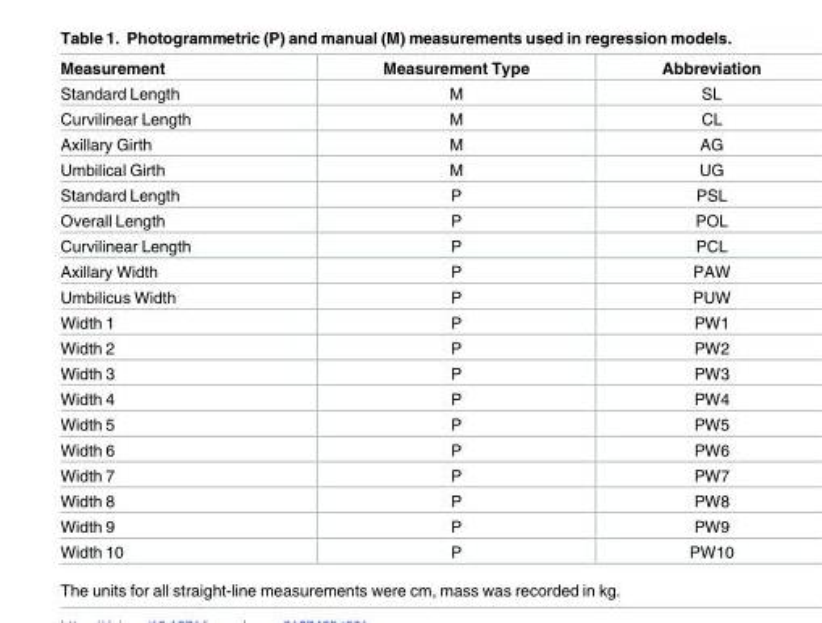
<table><thead><tr><td>Measurement</td><td>Measurement Type</td><td>Abbreviation</td></tr></thead><tbody><tr><td>Standard Length</td><td>M</td><td>SL</td></tr><tr><td>Curvilinear Length</td><td>M</td><td>CL</td></tr><tr><td>Axillary Girth</td><td>M</td><td>AG</td></tr><tr><td>Umbilical Girth</td><td>M</td><td>UG</td></tr><tr><td>Standard Length</td><td>P</td><td>PSL</td></tr><tr><td>Overall Length</td><td>P</td><td>POL</td></tr><tr><td>Curvilinear Length</td><td>P</td><td>PCL</td></tr><tr><td>Axillary Width</td><td>P</td><td>PAW</td></tr><tr><td>Umbilicus Width</td><td>P</td><td>PUW</td></tr><tr><td>Width 1</td><td>P</td><td>PW1</td></tr><tr><td>Width 2</td><td>P</td><td>PW2</td></tr><tr><td>Width 3</td><td>P</td><td>PW3</td></tr><tr><td>Width 4</td><td>P</td><td>PW4</td></tr><tr><td>Width 5</td><td>P</td><td>PW5</td></tr><tr><td>Width 6</td><td>P</td><td>PW6</td></tr><tr><td>Width 7</td><td>P</td><td>PW7</td></tr><tr><td>Width 8</td><td>P</td><td>PW8</td></tr><tr><td>Width 9</td><td>P</td><td>PW9</td></tr><tr><td>Width 10</td><td>P</td><td>PW10</td></tr></tbody></table>